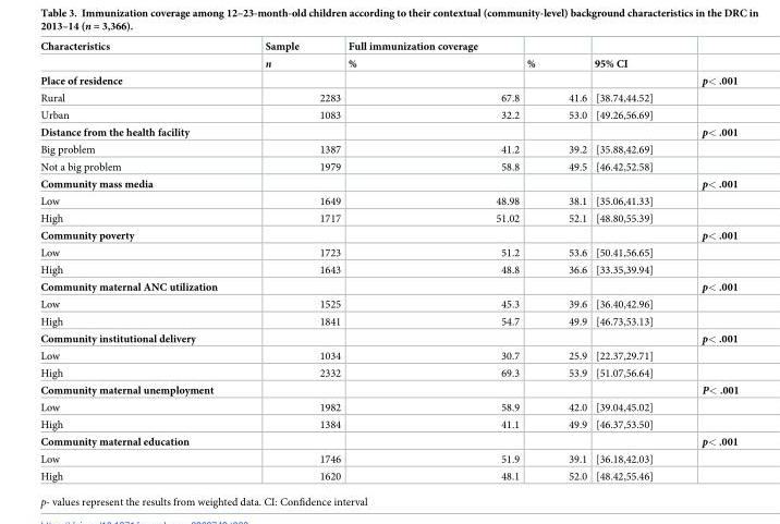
<table><thead><tr><td rowspan="2">Characteristics</td><td rowspan="2">Sample n</td><td rowspan="2">Full immunization coverage %</td><td rowspan="2">%</td><td rowspan="2">95% CI</td><td rowspan="2"></td></tr><tr></tr></thead><tbody><tr><td>Place of residence</td><td></td><td></td><td></td><td></td><td>p&lt; .001</td></tr><tr><td>Rural</td><td>2283</td><td>67.8</td><td>41.6</td><td>[38.74,44.52]</td><td></td></tr><tr><td>Urban</td><td>1083</td><td>32.2</td><td>53.0</td><td>[49.26,56.69]</td><td></td></tr><tr><td>Distance from the health facility</td><td></td><td></td><td></td><td></td><td>p&lt; .001</td></tr><tr><td>Big problem</td><td>1387</td><td>41.2</td><td>39.2</td><td>[35.88,42.69]</td><td></td></tr><tr><td>Not a big problem</td><td>1979</td><td>58.8</td><td>49.5</td><td>[46.42,52.58]</td><td></td></tr><tr><td>Community mass media</td><td></td><td></td><td></td><td></td><td>p&lt; .001</td></tr><tr><td>Low</td><td>1649</td><td>48.98</td><td>38.1</td><td>[35.06,41.33]</td><td></td></tr><tr><td>High</td><td>1717</td><td>51.02</td><td>52.1</td><td>[48.80,55.39]</td><td></td></tr><tr><td>Community poverty</td><td></td><td></td><td></td><td></td><td>p&lt; .001</td></tr><tr><td>Low</td><td>1723</td><td>51.2</td><td>53.6</td><td>[50.41,56.65]</td><td></td></tr><tr><td>High</td><td>1643</td><td>48.8</td><td>36.6</td><td>[33.35,39.94]</td><td></td></tr><tr><td>Community maternal ANC utilization</td><td></td><td></td><td></td><td></td><td>p&lt; .001</td></tr><tr><td>Low</td><td>1525</td><td>45.3</td><td>39.6</td><td>[36.40,42.96]</td><td></td></tr><tr><td>High</td><td>1841</td><td>54.7</td><td>49.9</td><td>[46.73,53.13]</td><td></td></tr><tr><td>Community institutional delivery</td><td></td><td></td><td></td><td></td><td>p&lt; .001</td></tr><tr><td>Low</td><td>1034</td><td>30.7</td><td>25.9</td><td>[22.37,29.71]</td><td></td></tr><tr><td>High</td><td>2332</td><td>69.3</td><td>53.9</td><td>[51.07,56.64]</td><td></td></tr><tr><td>Community maternal unemployment</td><td></td><td></td><td></td><td></td><td>P&lt; .001</td></tr><tr><td>Low</td><td>1982</td><td>58.9</td><td>42.0</td><td>[39.04,45.02]</td><td></td></tr><tr><td>High</td><td>1384</td><td>41.1</td><td>49.9</td><td>[46.37,53.50]</td><td></td></tr><tr><td>Community maternal education</td><td></td><td></td><td></td><td></td><td>p&lt; .001</td></tr><tr><td>Low</td><td>1746</td><td>51.9</td><td>39.1</td><td>[36.18,42.03]</td><td></td></tr><tr><td>High</td><td>1620</td><td>48.1</td><td>52.0</td><td>[48.42,55.46]</td><td></td></tr></tbody></table>